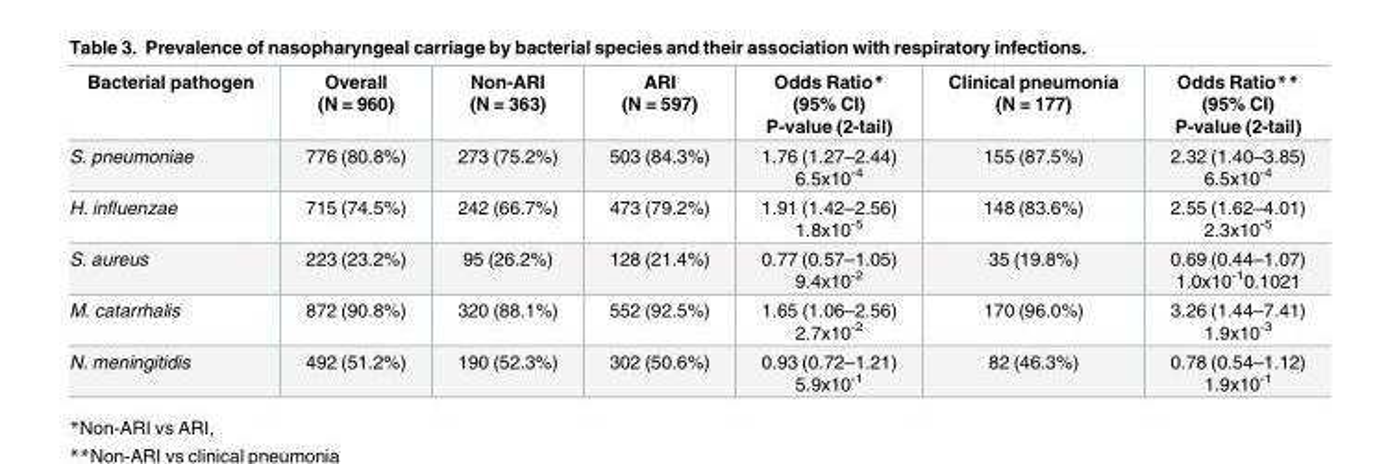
<table><thead><tr><td>Bacterial pathogen</td><td>Overall (N = 960)</td><td>Non-ARI (N = 363)</td><td>ARI (N = 597)</td><td>Odds Ratio* (95% CI) P-value (2-tail)</td><td>Clinical pneumonia (N = 177)</td><td>Odds Ratio** (95% CI) P-value (2-tail)</td></tr></thead><tbody><tr><td>S. pneumoniae</td><td>776 (80.8%)</td><td>273 (75.2%)</td><td>503 (84.3%)</td><td>1.76 (1.27–2.44) 6.5x10<sup>-4</sup></td><td>155 (87.5%)</td><td>2.32 (1.40–3.85) 6.5x10<sup>-4</sup></td></tr><tr><td>H. influenzae</td><td>715 (74.5%)</td><td>242 (66.7%)</td><td>473 (79.2%)</td><td>1.91 (1.42–2.56) 1.8x10<sup>-5</sup></td><td>148 (83.6%)</td><td>2.55 (1.62–4.01) 2.3x10<sup>-5</sup></td></tr><tr><td>S. aureus</td><td>223 (23.2%)</td><td>95 (26.2%)</td><td>128 (21.4%)</td><td>0.77 (0.57–1.05) 9.4x10<sup>-2</sup></td><td>35 (19.8%)</td><td>0.69 (0.44–1.07) 1.0x10<sup>-1</sup>0.1021</td></tr><tr><td>M. catarrhalis</td><td>872 (90.8%)</td><td>320 (88.1%)</td><td>552 (92.5%)</td><td>1.65 (1.06–2.56) 2.7x10<sup>-2</sup></td><td>170 (96.0%)</td><td>3.26 (1.44–7.41) 1.9x10<sup>-3</sup></td></tr><tr><td>N. meningitidis</td><td>492 (51.2%)</td><td>190 (52.3%)</td><td>302 (50.6%)</td><td>0.93 (0.72–1.21) 5.9x10<sup>-1</sup></td><td>82 (46.3%)</td><td>0.78 (0.54–1.12) 1.9x10<sup>-1</sup></td></tr></tbody></table>